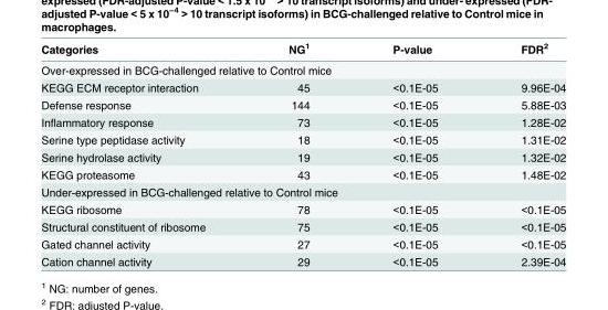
<table><thead><tr><td>Categories</td><td>NG<sup>1</sup></td><td>P-value</td><td>FDR<sup>2</sup></td></tr></thead><tbody><tr><td colspan="4">Over-expressed in BCG-challenged relative to Control mice</td></tr><tr><td>KEGG ECM receptor interaction</td><td>45</td><td>&lt;0.1E-05</td><td>9.96E-04</td></tr><tr><td>Defense response</td><td>144</td><td>&lt;0.1E-05</td><td>5.88E-03</td></tr><tr><td>Inflammatory response</td><td>73</td><td>&lt;0.1E-05</td><td>1.28E-02</td></tr><tr><td>Serine type peptidase activity</td><td>18</td><td>&lt;0.1E-05</td><td>1.31E-02</td></tr><tr><td>Serine hydrolase activity</td><td>19</td><td>&lt;0.1E-05</td><td>1.32E-02</td></tr><tr><td>KEGG proteasome</td><td>43</td><td>&lt;0.1E-05</td><td>1.48E-02</td></tr><tr><td colspan="4">Under-expressed in BCG-challenged relative to Control mice</td></tr><tr><td>KEGG ribosome</td><td>78</td><td>&lt;0.1E-05</td><td>&lt;0.1E-05</td></tr><tr><td>Structural constituent of ribosome</td><td>75</td><td>&lt;0.1E-05</td><td>&lt;0.1E-05</td></tr><tr><td>Gated channel activity</td><td>27</td><td>&lt;0.1E-05</td><td>&lt;0.1E-05</td></tr><tr><td>Cation channel activity</td><td>29</td><td>&lt;0.1E-05</td><td>2.39E-04</td></tr></tbody></table>